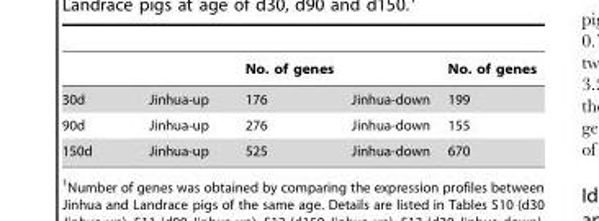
<table><thead><tr><td></td><td></td><td>No. of genes</td><td></td><td>No. of genes</td></tr></thead><tbody><tr><td>30d</td><td>Jinhua-up</td><td>176</td><td>Jinhua-down</td><td>199</td></tr><tr><td>90d</td><td>Jinhua-up</td><td>276</td><td>Jinhua-down</td><td>155</td></tr><tr><td>150d</td><td>Jinhua-up</td><td>525</td><td>Jinhua-down</td><td>670</td></tr></tbody></table>